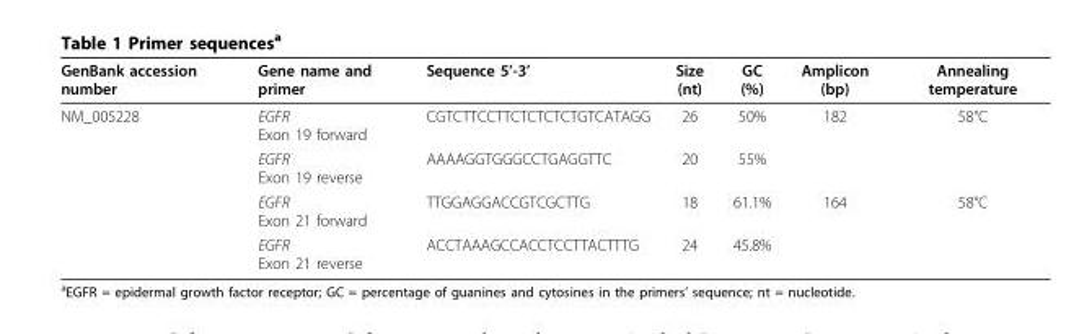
<table><thead><tr><td>GenBank accession number</td><td>Gene name and primer</td><td>Sequence 5’-3’</td><td>Size (nt)</td><td>GC (%)</td><td>Amplicon (bp)</td><td>Annealing temperature</td></tr></thead><tbody><tr><td rowspan="4">NM_005228</td><td>EGFR Exon 19 forward</td><td>CGTCTTCCTTCTCTCTCTGTCATAGG</td><td>26</td><td>50%</td><td>182</td><td>58°C</td></tr><tr><td>EGFR Exon 19 reverse</td><td>AAAAGGTGGGCCTGAGGTTC</td><td>20</td><td>55%</td><td></td><td></td></tr><tr><td>EGFR Exon 21 forward</td><td>TTGGAGGACCGTCGCTTG</td><td>18</td><td>61.1%</td><td>164</td><td>58°C</td></tr><tr><td>EGFR Exon 21 reverse</td><td>ACCTAAAGCCACCTCCTTACTTTG</td><td>24</td><td>45.8%</td><td></td><td></td></tr></tbody></table>